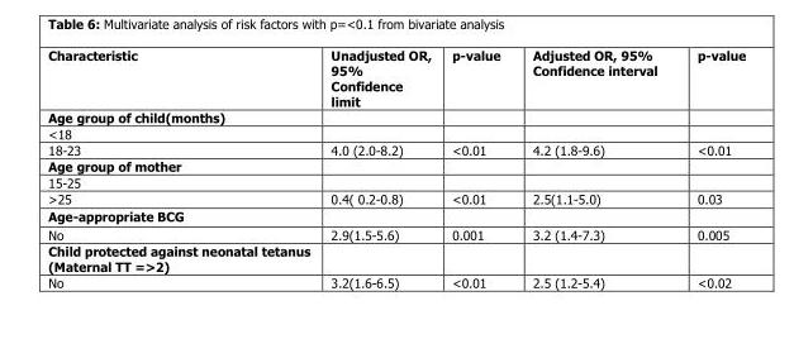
<table><thead><tr><td>Characteristic</td><td>Unadjusted OR, 95% Confidence limit</td><td>p-value</td><td>Adjusted OR, 95% Confidence interval</td><td>p-value</td></tr></thead><tbody><tr><td colspan="5">Age group of child(months)</td></tr><tr><td colspan="5">&lt;18</td></tr><tr><td>18-23</td><td>4.0 (2.0-8.2)</td><td>&lt;0.01</td><td>4.2 (1.8-9.6)</td><td>&lt;0.01</td></tr><tr><td colspan="5">Age group of mother</td></tr><tr><td colspan="5">15-25</td></tr><tr><td>&gt;25</td><td>0.4( 0.2-0.8)</td><td>&lt;0.01</td><td>2.5(1.1-5.0)</td><td>0.03</td></tr><tr><td colspan="5">Age-appropriate BCG</td></tr><tr><td>No</td><td>2.9(1.5-5.6)</td><td>0.001</td><td>3.2 (1.4-7.3)</td><td>0.005</td></tr><tr><td colspan="5">Child protected against neonatal tetanus (Maternal TT =&gt;2)</td></tr><tr><td>No</td><td>3.2(1.6-6.5)</td><td>&lt;0.01</td><td>2.5 (1.2-5.4)</td><td>&lt;0.02</td></tr></tbody></table>